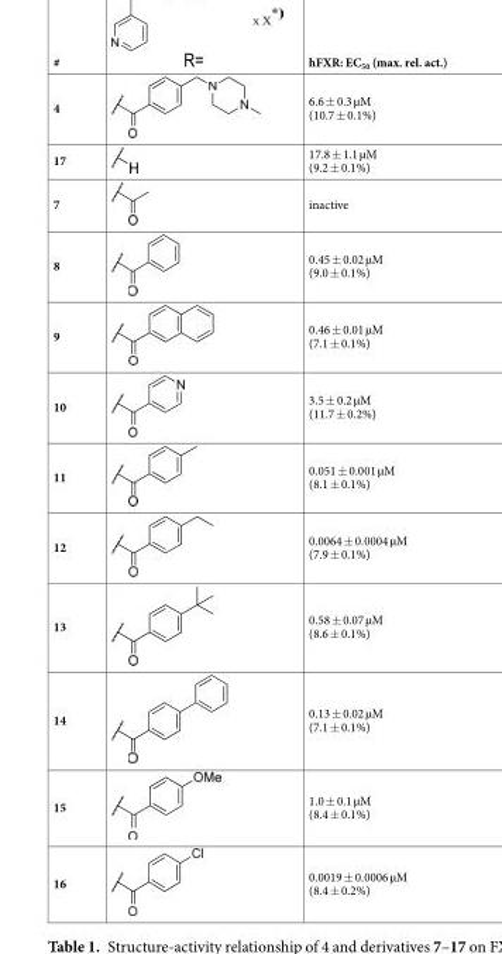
<table><thead><tr><td>#</td><td>hFXR: EC<sub>50</sub> (max. rel. act.)</td></tr></thead><tbody><tr><td>4</td><td>6.6 ± 0.3 µM (10.7 ± 0.1%)</td></tr><tr><td>17</td><td>17.8 ± 1.1 µM (9.2 ± 0.1%)</td></tr><tr><td>7</td><td>inactive</td></tr><tr><td>8</td><td>0.45 ± 0.02 µM (9.0 ± 0.1%)</td></tr><tr><td>9</td><td>0.46 ± 0.01 µM (7.1 ± 0.1%)</td></tr><tr><td>10</td><td>3.5 ± 0.2 µM (11.7 ± 0.2%)</td></tr><tr><td>11</td><td>0.051 ± 0.001 µM (8.1 ± 0.1%)</td></tr><tr><td>12</td><td>0.0064 ± 0.0004 µM (7.9 ± 0.1%)</td></tr><tr><td>13</td><td>0.58 ± 0.07 µM (8.6 ± 0.1%)</td></tr><tr><td>14</td><td>0.13 ± 0.02 µM (7.1 ± 0.1%)</td></tr><tr><td>15</td><td>1.0 ± 0.1 µM (8.4 ± 0.1%)</td></tr><tr><td>16</td><td>0.0019 ± 0.0006 µM (8.4 ± 0.2%)</td></tr></tbody></table>